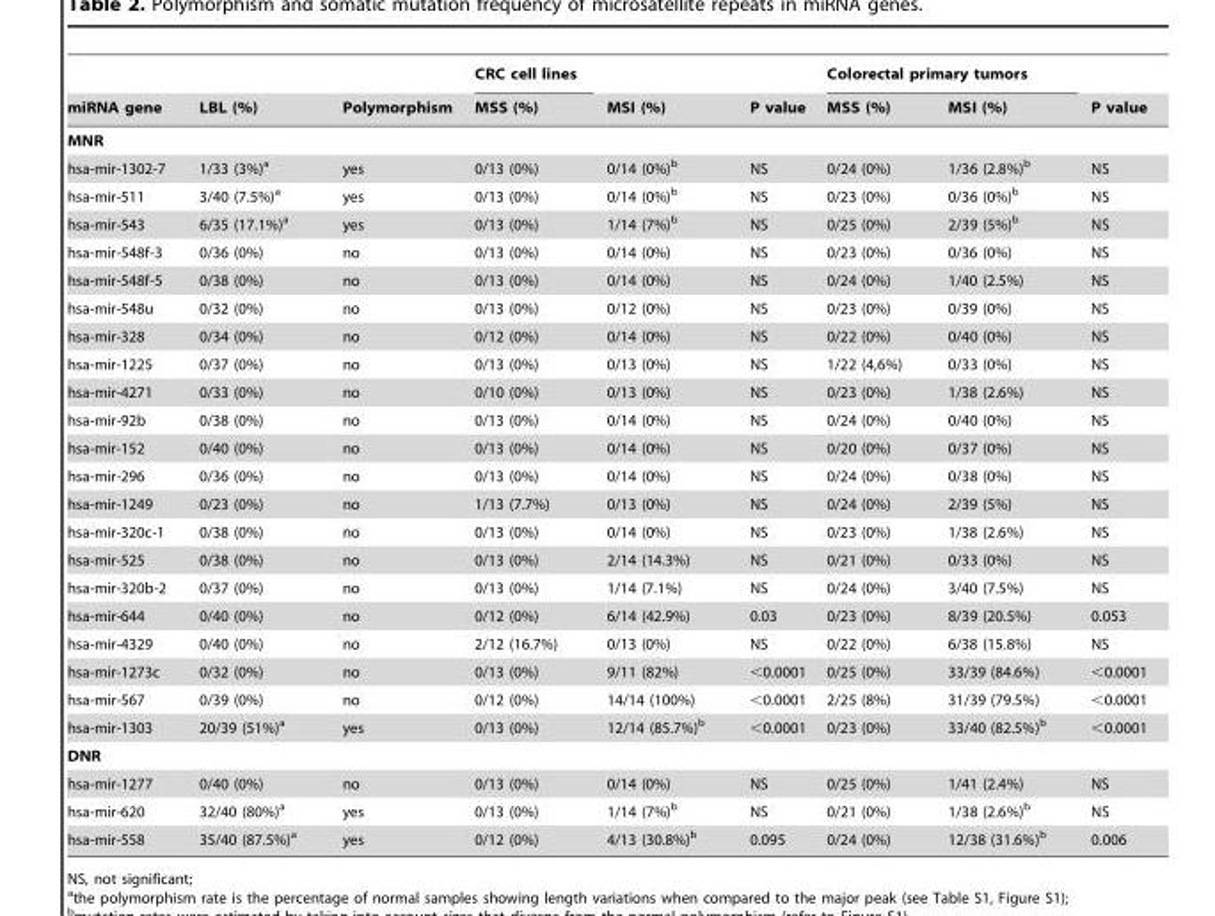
<table><thead><tr><td rowspan="2">miRNA gene</td><td rowspan="2">LBL (%)</td><td rowspan="2">Polymorphism</td><td rowspan="2">CRC cell lines MSS (%)</td><td rowspan="2">MSI (%)</td><td rowspan="2">P value</td><td colspan="2">Colorectal primary tumors</td><td rowspan="2">P value</td></tr><tr><td>MSS (%)</td><td>MSI (%)</td></tr></thead><tbody><tr><td colspan="9">MNR</td></tr><tr><td>hsa-mir-1302-7</td><td>1/33 (3%)<sup>a</sup></td><td>yes</td><td>0/13 (0%)</td><td>0/14 (0%)<sup>b</sup></td><td>NS</td><td>0/24 (0%)</td><td>1/36 (2.8%)<sup>b</sup></td><td>NS</td></tr><tr><td>hsa-mir-511</td><td>3/40 (7.5%)<sup>a</sup></td><td>yes</td><td>0/13 (0%)</td><td>0/14 (0%)<sup>b</sup></td><td>NS</td><td>0/23 (0%)</td><td>0/36 (0%)<sup>b</sup></td><td>NS</td></tr><tr><td>hsa-mir-543</td><td>6/35 (17.1%)<sup>a</sup></td><td>yes</td><td>0/13 (0%)</td><td>1/14 (7%)<sup>b</sup></td><td>NS</td><td>0/25 (0%)</td><td>2/39 (5%)<sup>b</sup></td><td>NS</td></tr><tr><td>hsa-mir-548f-3</td><td>0/36 (0%)</td><td>no</td><td>0/13 (0%)</td><td>0/14 (0%)</td><td>NS</td><td>0/23 (0%)</td><td>0/36 (0%)</td><td>NS</td></tr><tr><td>hsa-mir-548f-5</td><td>0/38 (0%)</td><td>no</td><td>0/13 (0%)</td><td>0/14 (0%)</td><td>NS</td><td>0/24 (0%)</td><td>1/40 (2.5%)</td><td>NS</td></tr><tr><td>hsa-mir-548u</td><td>0/32 (0%)</td><td>no</td><td>0/13 (0%)</td><td>0/12 (0%)</td><td>NS</td><td>0/23 (0%)</td><td>0/39 (0%)</td><td>NS</td></tr><tr><td>hsa-mir-328</td><td>0/34 (0%)</td><td>no</td><td>0/12 (0%)</td><td>0/14 (0%)</td><td>NS</td><td>0/22 (0%)</td><td>0/40 (0%)</td><td>NS</td></tr><tr><td>hsa-mir-1225</td><td>0/37 (0%)</td><td>no</td><td>0/13 (0%)</td><td>0/13 (0%)</td><td>NS</td><td>1/22 (4,6%)</td><td>0/33 (0%)</td><td>NS</td></tr><tr><td>hsa-mir-4271</td><td>0/33 (0%)</td><td>no</td><td>0/10 (0%)</td><td>0/13 (0%)</td><td>NS</td><td>0/23 (0%)</td><td>1/38 (2.6%)</td><td>NS</td></tr><tr><td>hsa-mir-92b</td><td>0/38 (0%)</td><td>no</td><td>0/13 (0%)</td><td>0/14 (0%)</td><td>NS</td><td>0/24 (0%)</td><td>0/40 (0%)</td><td>NS</td></tr><tr><td>hsa-mir-152</td><td>0/40 (0%)</td><td>no</td><td>0/13 (0%)</td><td>0/14 (0%)</td><td>NS</td><td>0/20 (0%)</td><td>0/37 (0%)</td><td>NS</td></tr><tr><td>hsa-mir-296</td><td>0/36 (0%)</td><td>no</td><td>0/13 (0%)</td><td>0/14 (0%)</td><td>NS</td><td>0/24 (0%)</td><td>0/38 (0%)</td><td>NS</td></tr><tr><td>hsa-mir-1249</td><td>0/23 (0%)</td><td>no</td><td>1/13 (7.7%)</td><td>0/13 (0%)</td><td>NS</td><td>0/24 (0%)</td><td>2/39 (5%)</td><td>NS</td></tr><tr><td>hsa-mir-320c-1</td><td>0/38 (0%)</td><td>no</td><td>0/13 (0%)</td><td>0/14 (0%)</td><td>NS</td><td>0/23 (0%)</td><td>1/38 (2.6%)</td><td>NS</td></tr><tr><td>hsa-mir-525</td><td>0/38 (0%)</td><td>no</td><td>0/13 (0%)</td><td>2/14 (14.3%)</td><td>NS</td><td>0/21 (0%)</td><td>0/33 (0%)</td><td>NS</td></tr><tr><td>hsa-mir-320b-2</td><td>0/37 (0%)</td><td>no</td><td>0/13 (0%)</td><td>1/14 (7.1%)</td><td>NS</td><td>0/24 (0%)</td><td>3/40 (7.5%)</td><td>NS</td></tr><tr><td>hsa-mir-644</td><td>0/40 (0%)</td><td>no</td><td>0/12 (0%)</td><td>6/14 (42.9%)</td><td>0.03</td><td>0/23 (0%)</td><td>8/39 (20.5%)</td><td>0.053</td></tr><tr><td>hsa-mir-4329</td><td>0/40 (0%)</td><td>no</td><td>2/12 (16.7%)</td><td>0/13 (0%)</td><td>NS</td><td>0/22 (0%)</td><td>6/38 (15.8%)</td><td>NS</td></tr><tr><td>hsa-mir-1273c</td><td>0/32 (0%)</td><td>no</td><td>0/13 (0%)</td><td>9/11 (82%)</td><td>&lt;0.0001</td><td>0/25 (0%)</td><td>33/39 (84.6%)</td><td>&lt;0.0001</td></tr><tr><td>hsa-mir-567</td><td>0/39 (0%)</td><td>no</td><td>0/12 (0%)</td><td>14/14 (100%)</td><td>&lt;0.0001</td><td>2/25 (8%)</td><td>31/39 (79.5%)</td><td>&lt;0.0001</td></tr><tr><td>hsa-mir-1303</td><td>20/39 (51%)<sup>a</sup></td><td>yes</td><td>0/13 (0%)</td><td>12/14 (85.7%)<sup>b</sup></td><td>&lt;0.0001</td><td>0/23 (0%)</td><td>33/40 (82.5%)<sup>b</sup></td><td>&lt;0.0001</td></tr><tr><td colspan="9">DNR</td></tr><tr><td>hsa-mir-1277</td><td>0/40 (0%)</td><td>no</td><td>0/13 (0%)</td><td>0/14 (0%)</td><td>NS</td><td>0/25 (0%)</td><td>1/41 (2.4%)</td><td>NS</td></tr><tr><td>hsa-mir-620</td><td>32/40 (80%)<sup>a</sup></td><td>yes</td><td>0/13 (0%)</td><td>1/14 (7%)<sup>b</sup></td><td>NS</td><td>0/21 (0%)</td><td>1/38 (2.6%)<sup>b</sup></td><td>NS</td></tr><tr><td>hsa-mir-558</td><td>35/40 (87.5%)<sup>a</sup></td><td>yes</td><td>0/12 (0%)</td><td>4/13 (30.8%)<sup>b</sup></td><td>0.095</td><td>0/24 (0%)</td><td>12/38 (31.6%)<sup>b</sup></td><td>0.006</td></tr></tbody></table>